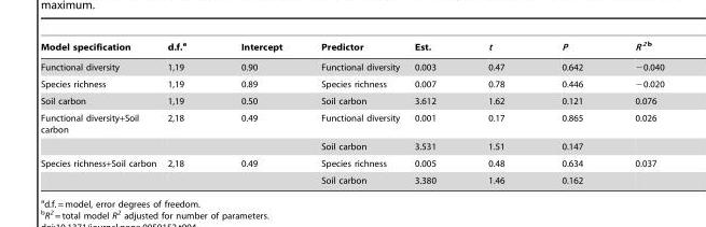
<table><thead><tr><td>Model specification</td><td>d.f.<sup>a</sup></td><td>Intercept</td><td>Predictor</td><td>Est.</td><td>t</td><td>P</td><td>R <sup>2</sup> b</td></tr></thead><tbody><tr><td>Functional diversity</td><td>1,19</td><td>0.90</td><td>Functional diversity</td><td>0.003</td><td>0.47</td><td>0.642</td><td>−0.040</td></tr><tr><td>Species richness</td><td>1,19</td><td>0.89</td><td>Species richness</td><td>0.007</td><td>0.78</td><td>0.446</td><td>−0.020</td></tr><tr><td>Soil carbon</td><td>1,19</td><td>0.50</td><td>Soil carbon</td><td>3.612</td><td>1.62</td><td>0.121</td><td>0.076</td></tr><tr><td rowspan="2">Functional diversity+Soil carbon</td><td>2,18</td><td>0.49</td><td>Functional diversity</td><td>0.001</td><td>0.17</td><td>0.865</td><td>0.026</td></tr><tr><td></td><td></td><td>Soil carbon</td><td>3.531</td><td>1.51</td><td>0.147</td><td></td></tr><tr><td rowspan="2">Species richness+Soil carbon</td><td>2,18</td><td>0.49</td><td>Species richness</td><td>0.005</td><td>0.48</td><td>0.634</td><td>0.037</td></tr><tr><td></td><td></td><td>Soil carbon</td><td>3.380</td><td>1.46</td><td>0.162</td><td></td></tr></tbody></table>